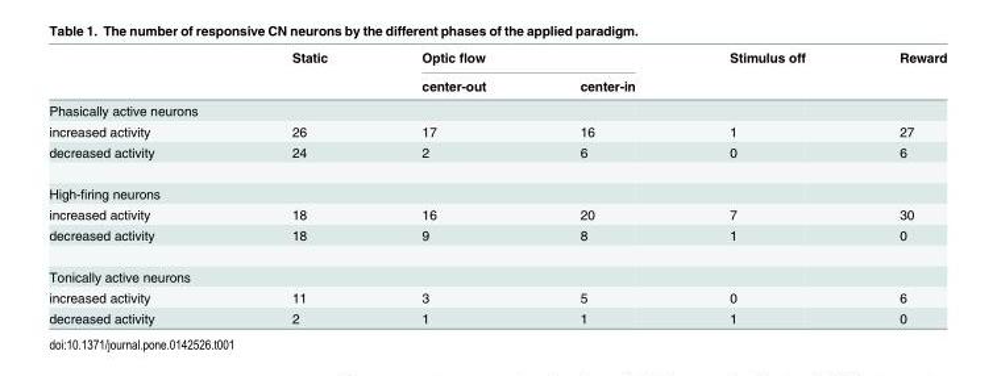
<table><thead><tr><td rowspan="2"></td><td rowspan="2">Static</td><td colspan="2">Optic flow</td><td rowspan="2">Stimulus off</td><td rowspan="2">Reward</td></tr><tr><td>center-out</td><td>center-in</td></tr></thead><tbody><tr><td colspan="6">Phasically active neurons</td></tr><tr><td>increased activity</td><td>26</td><td>17</td><td>16</td><td>1</td><td>27</td></tr><tr><td>decreased activity</td><td>24</td><td>2</td><td>6</td><td>0</td><td>6</td></tr><tr><td colspan="6">High-firing neurons</td></tr><tr><td>increased activity</td><td>18</td><td>16</td><td>20</td><td>7</td><td>30</td></tr><tr><td>decreased activity</td><td>18</td><td>9</td><td>8</td><td>1</td><td>0</td></tr><tr><td colspan="6">Tonically active neurons</td></tr><tr><td>increased activity</td><td>11</td><td>3</td><td>5</td><td>0</td><td>6</td></tr><tr><td>decreased activity</td><td>2</td><td>1</td><td>1</td><td>1</td><td>0</td></tr></tbody></table>